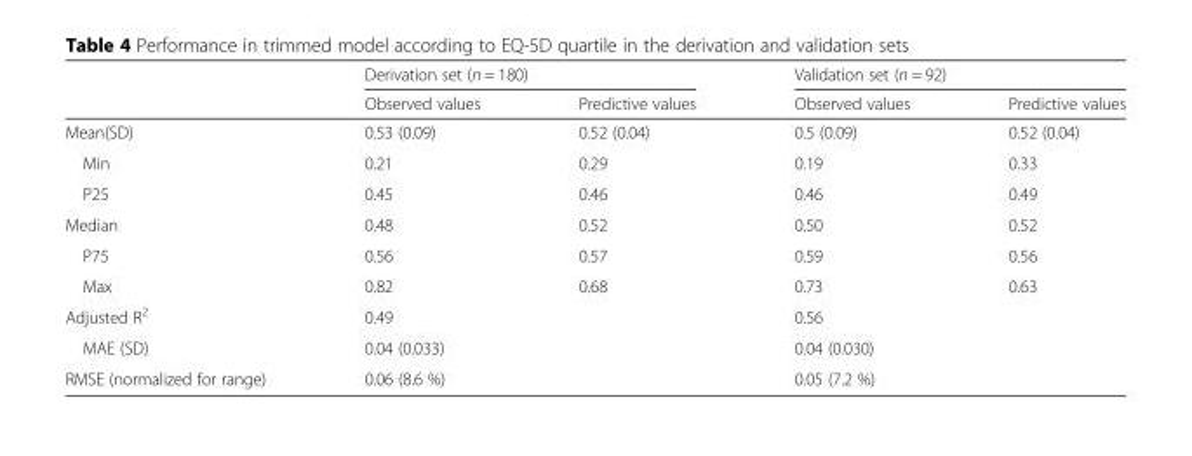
<table><thead><tr><td rowspan="2"></td><td colspan="2">Derivation set (n = 180)</td><td colspan="2">Validation set (n = 92)</td></tr><tr><td>Observed values</td><td>Predictive values</td><td>Observed values</td><td>Predictive values</td></tr></thead><tbody><tr><td>Mean(SD)</td><td>0.53 (0.09)</td><td>0.52 (0.04)</td><td>0.5 (0.09)</td><td>0.52 (0.04)</td></tr><tr><td>Min</td><td>0.21</td><td>0.29</td><td>0.19</td><td>0.33</td></tr><tr><td>P25</td><td>0.45</td><td>0.46</td><td>0.46</td><td>0.49</td></tr><tr><td>Median</td><td>0.48</td><td>0.52</td><td>0.50</td><td>0.52</td></tr><tr><td>P75</td><td>0.56</td><td>0.57</td><td>0.59</td><td>0.56</td></tr><tr><td>Max</td><td>0.82</td><td>0.68</td><td>0.73</td><td>0.63</td></tr><tr><td>Adjusted R<sup>2</sup></td><td colspan="2">0.49</td><td colspan="2">0.56</td></tr><tr><td>MAE (SD)</td><td colspan="2">0.04 (0.033)</td><td colspan="2">0.04 (0.030)</td></tr><tr><td>RMSE (normalized for range)</td><td colspan="2">0.06 (8.6 %)</td><td colspan="2">0.05 (7.2 %)</td></tr></tbody></table>